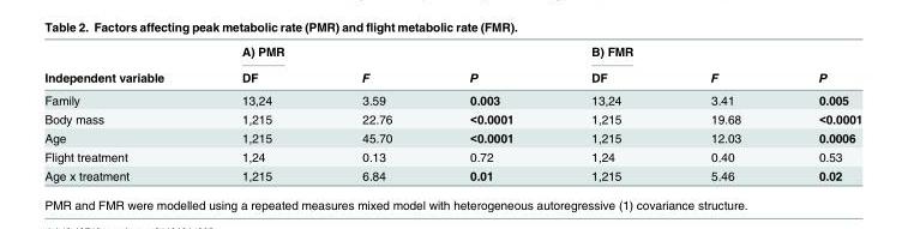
<table><thead><tr><td rowspan="2">Independent variable</td><td rowspan="2">A) PMR DF</td><td rowspan="2">F</td><td rowspan="2">P</td><td rowspan="2">B) FMR DF</td><td rowspan="2">F</td><td rowspan="2">P</td></tr><tr></tr></thead><tbody><tr><td>Family</td><td>13,24</td><td>3.59</td><td>0.003</td><td>13,24</td><td>3.41</td><td>0.005</td></tr><tr><td>Body mass</td><td>1,215</td><td>22.76</td><td>&lt;0.0001</td><td>1,215</td><td>19.68</td><td>&lt;0.0001</td></tr><tr><td>Age</td><td>1,215</td><td>45.70</td><td>&lt;0.0001</td><td>1,215</td><td>12.03</td><td>0.0006</td></tr><tr><td>Flight treatment</td><td>1,24</td><td>0.13</td><td>0.72</td><td>1,24</td><td>0.40</td><td>0.53</td></tr><tr><td>Age x treatment</td><td>1,215</td><td>6.84</td><td>0.01</td><td>1,215</td><td>5.46</td><td>0.02</td></tr></tbody></table>